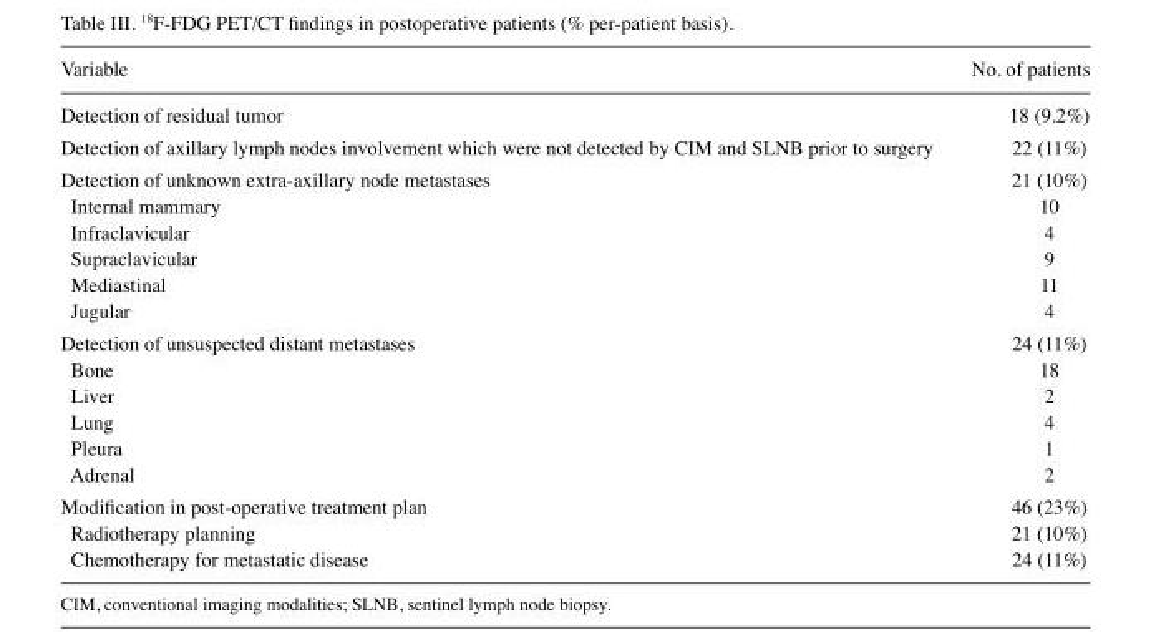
<table><thead><tr><td>Variable</td><td>No. of patients</td></tr></thead><tbody><tr><td>Detection of residual tumor</td><td>18 (9.2%)</td></tr><tr><td>Detection of axillary lymph nodes involvement which were not detected by CIM and SLNB prior to surgery</td><td>22 (11%)</td></tr><tr><td>Detection of unknown extra‑axillary node metastases</td><td>21 (10%)</td></tr><tr><td>Internal mammary</td><td>10</td></tr><tr><td>Infraclavicular</td><td>4</td></tr><tr><td>Supraclavicular</td><td>9</td></tr><tr><td>Mediastinal</td><td>11</td></tr><tr><td>Jugular</td><td>4</td></tr><tr><td>Detection of unsuspected distant metastases</td><td>24 (11%)</td></tr><tr><td>Bone</td><td>18</td></tr><tr><td>Liver</td><td>2</td></tr><tr><td>Lung</td><td>4</td></tr><tr><td>Pleura</td><td>1</td></tr><tr><td>Adrenal</td><td>2</td></tr><tr><td>Modification in post‑operative treatment plan</td><td>46 (23%)</td></tr><tr><td>Radiotherapy planning</td><td>21 (10%)</td></tr><tr><td>Chemotherapy for metastatic disease</td><td>24 (11%)</td></tr></tbody></table>